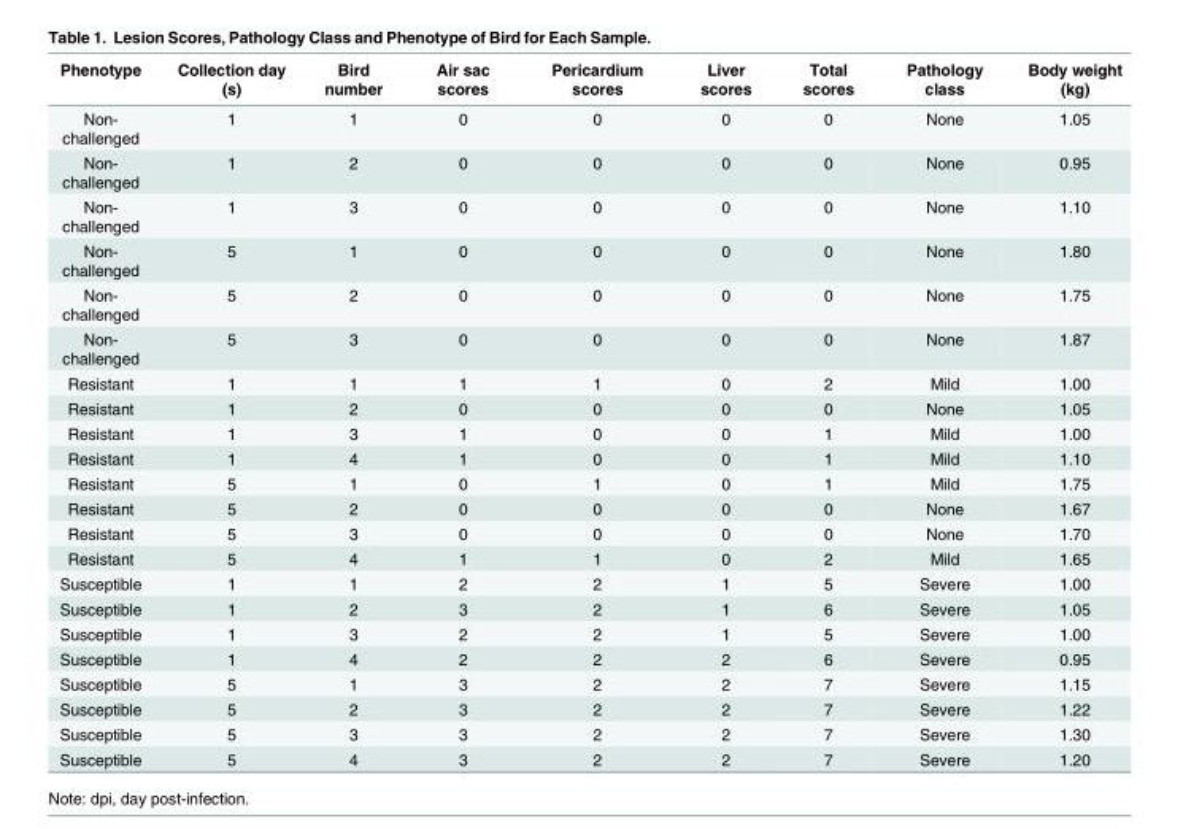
<table><thead><tr><td>Phenotype</td><td>Collection day (s)</td><td>Bird number</td><td>Air sac scores</td><td>Pericardium scores</td><td>Liver scores</td><td>Total scores</td><td>Pathology class</td><td>Body weight (kg)</td></tr></thead><tbody><tr><td>Non- challenged</td><td>1</td><td>1</td><td>0</td><td>0</td><td>0</td><td>0</td><td>None</td><td>1.05</td></tr><tr><td>Non- challenged</td><td>1</td><td>2</td><td>0</td><td>0</td><td>0</td><td>0</td><td>None</td><td>0.95</td></tr><tr><td>Non- challenged</td><td>1</td><td>3</td><td>0</td><td>0</td><td>0</td><td>0</td><td>None</td><td>1.10</td></tr><tr><td>Non- challenged</td><td>5</td><td>1</td><td>0</td><td>0</td><td>0</td><td>0</td><td>None</td><td>1.80</td></tr><tr><td>Non- challenged</td><td>5</td><td>2</td><td>0</td><td>0</td><td>0</td><td>0</td><td>None</td><td>1.75</td></tr><tr><td>Non- challenged</td><td>5</td><td>3</td><td>0</td><td>0</td><td>0</td><td>0</td><td>None</td><td>1.87</td></tr><tr><td>Resistant</td><td>1</td><td>1</td><td>1</td><td>1</td><td>0</td><td>2</td><td>Mild</td><td>1.00</td></tr><tr><td>Resistant</td><td>1</td><td>2</td><td>0</td><td>0</td><td>0</td><td>0</td><td>None</td><td>1.05</td></tr><tr><td>Resistant</td><td>1</td><td>3</td><td>1</td><td>0</td><td>0</td><td>1</td><td>Mild</td><td>1.00</td></tr><tr><td>Resistant</td><td>1</td><td>4</td><td>1</td><td>0</td><td>0</td><td>1</td><td>Mild</td><td>1.10</td></tr><tr><td>Resistant</td><td>5</td><td>1</td><td>0</td><td>1</td><td>0</td><td>1</td><td>Mild</td><td>1.75</td></tr><tr><td>Resistant</td><td>5</td><td>2</td><td>0</td><td>0</td><td>0</td><td>0</td><td>None</td><td>1.67</td></tr><tr><td>Resistant</td><td>5</td><td>3</td><td>0</td><td>0</td><td>0</td><td>0</td><td>None</td><td>1.70</td></tr><tr><td>Resistant</td><td>5</td><td>4</td><td>1</td><td>1</td><td>0</td><td>2</td><td>Mild</td><td>1.65</td></tr><tr><td>Susceptible</td><td>1</td><td>1</td><td>2</td><td>2</td><td>1</td><td>5</td><td>Severe</td><td>1.00</td></tr><tr><td>Susceptible</td><td>1</td><td>2</td><td>3</td><td>2</td><td>1</td><td>6</td><td>Severe</td><td>1.05</td></tr><tr><td>Susceptible</td><td>1</td><td>3</td><td>2</td><td>2</td><td>1</td><td>5</td><td>Severe</td><td>1.00</td></tr><tr><td>Susceptible</td><td>1</td><td>4</td><td>2</td><td>2</td><td>2</td><td>6</td><td>Severe</td><td>0.95</td></tr><tr><td>Susceptible</td><td>5</td><td>1</td><td>3</td><td>2</td><td>2</td><td>7</td><td>Severe</td><td>1.15</td></tr><tr><td>Susceptible</td><td>5</td><td>2</td><td>3</td><td>2</td><td>2</td><td>7</td><td>Severe</td><td>1.22</td></tr><tr><td>Susceptible</td><td>5</td><td>3</td><td>3</td><td>2</td><td>2</td><td>7</td><td>Severe</td><td>1.30</td></tr><tr><td>Susceptible</td><td>5</td><td>4</td><td>3</td><td>2</td><td>2</td><td>7</td><td>Severe</td><td>1.20</td></tr></tbody></table>